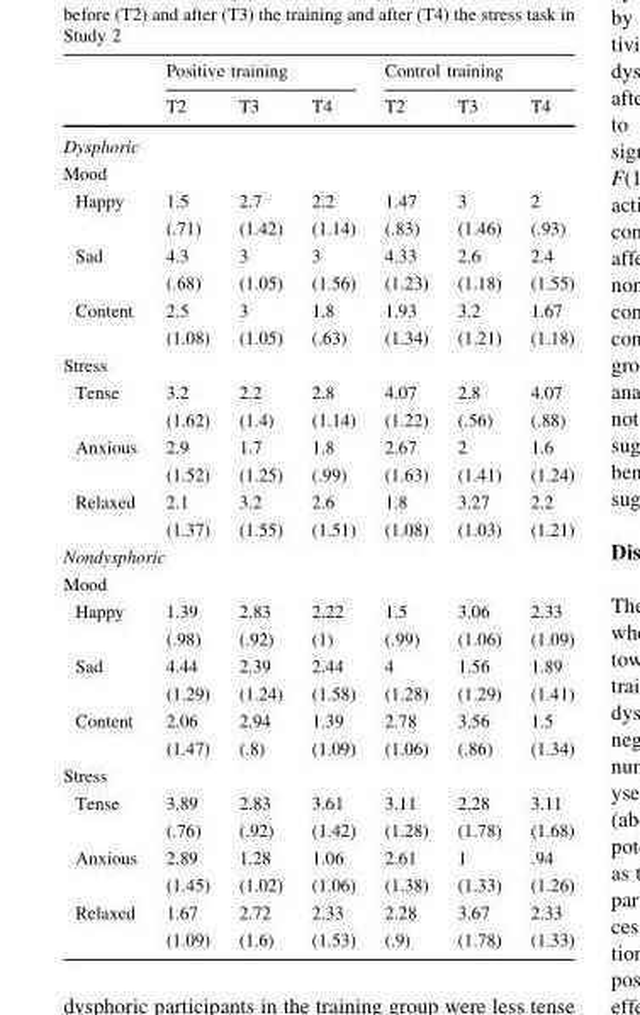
<table><thead><tr><td rowspan="2"></td><td colspan="3">Positive training</td><td colspan="3">Control training</td></tr><tr><td>T2</td><td>T3</td><td>T4</td><td>T2</td><td>T3</td><td>T4</td></tr></thead><tbody><tr><td colspan="7">Dysphoric</td></tr><tr><td colspan="7">Mood</td></tr><tr><td rowspan="2">Happy</td><td>1.5</td><td>2.7</td><td>2.2</td><td>1.47</td><td>3</td><td>2</td></tr><tr><td>(.71)</td><td>(1.42)</td><td>(1.14)</td><td>(.83)</td><td>(1.46)</td><td>(.93)</td></tr><tr><td rowspan="2">Sad</td><td>4.3</td><td>3</td><td>3</td><td>4.33</td><td>2.6</td><td>2.4</td></tr><tr><td>(.68)</td><td>(1.05)</td><td>(1.56)</td><td>(1.23)</td><td>(1.18)</td><td>(1.55)</td></tr><tr><td rowspan="2">Content</td><td>2.5</td><td>3</td><td>1.8</td><td>1.93</td><td>3.2</td><td>1.67</td></tr><tr><td>(1.08)</td><td>(1.05)</td><td>(.63)</td><td>(1.34)</td><td>(1.21)</td><td>(1.18)</td></tr><tr><td colspan="7">Stress</td></tr><tr><td rowspan="2">Tense</td><td>3.2</td><td>2.2</td><td>2.8</td><td>4.07</td><td>2.8</td><td>4.07</td></tr><tr><td>(1.62)</td><td>(1.4)</td><td>(1.14)</td><td>(1.22)</td><td>(.56)</td><td>(.88)</td></tr><tr><td rowspan="2">Anxious</td><td>2.9</td><td>1.7</td><td>1.8</td><td>2.67</td><td>2</td><td>1.6</td></tr><tr><td>(1.52)</td><td>(1.25)</td><td>(.99)</td><td>(1.63)</td><td>(1.41)</td><td>(1.24)</td></tr><tr><td rowspan="2">Relaxed</td><td>2.1</td><td>3.2</td><td>2.6</td><td>1.8</td><td>3.27</td><td>2.2</td></tr><tr><td>(1.37)</td><td>(1.55)</td><td>(1.51)</td><td>(1.08)</td><td>(1.03)</td><td>(1.21)</td></tr><tr><td colspan="7">Nondysphoric</td></tr><tr><td colspan="7">Mood</td></tr><tr><td rowspan="2">Happy</td><td>1.39</td><td>2.83</td><td>2.22</td><td>1.5</td><td>3.06</td><td>2.33</td></tr><tr><td>(.98)</td><td>(.92)</td><td>(1)</td><td>(.99)</td><td>(1.06)</td><td>(1.09)</td></tr><tr><td rowspan="2">Sad</td><td>4.44</td><td>2.39</td><td>2.44</td><td>4</td><td>1.56</td><td>1.89</td></tr><tr><td>(1.29)</td><td>(1.24)</td><td>(1.58)</td><td>(1.28)</td><td>(1.29)</td><td>(1.41)</td></tr><tr><td rowspan="2">Content</td><td>2.06</td><td>2.94</td><td>1.39</td><td>2.78</td><td>3.56</td><td>1.5</td></tr><tr><td>(1.47)</td><td>(.8)</td><td>(1.09)</td><td>(1.06)</td><td>(.86)</td><td>(1.34)</td></tr><tr><td colspan="7">Stress</td></tr><tr><td rowspan="2">Tense</td><td>3.89</td><td>2.83</td><td>3.61</td><td>3.11</td><td>2.28</td><td>3.11</td></tr><tr><td>(.76)</td><td>(.92)</td><td>(1.42)</td><td>(1.28)</td><td>(1.78)</td><td>(1.68)</td></tr><tr><td rowspan="2">Anxious</td><td>2.89</td><td>1.28</td><td>1.06</td><td>2.61</td><td>1</td><td>.94</td></tr><tr><td>(1.45)</td><td>(1.02)</td><td>(1.06)</td><td>(1.38)</td><td>(1.33)</td><td>(1.26)</td></tr><tr><td rowspan="2">Relaxed</td><td>1.67</td><td>2.72</td><td>2.33</td><td>2.28</td><td>3.67</td><td>2.33</td></tr><tr><td>(1.09)</td><td>(1.6)</td><td>(1.53)</td><td>(.9)</td><td>(1.78)</td><td>(1.33)</td></tr></tbody></table>